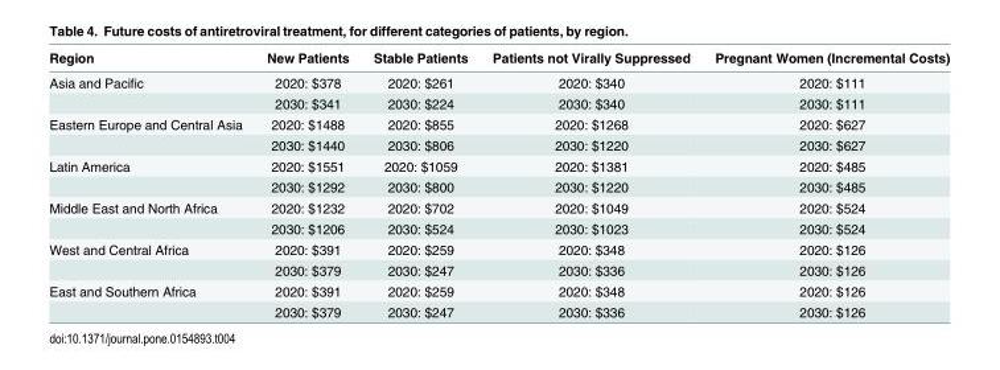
<table><thead><tr><td>Region</td><td>New Patients</td><td>Stable Patients</td><td>Patients not Virally Suppressed</td><td>Pregnant Women (Incremental Costs)</td></tr></thead><tbody><tr><td rowspan="2">Asia and Pacific</td><td>2020: $378</td><td>2020: $261</td><td>2020: $340</td><td>2020: $111</td></tr><tr><td>2030: $341</td><td>2030: $224</td><td>2030: $340</td><td>2030: $111</td></tr><tr><td rowspan="2">Eastern Europe and Central Asia</td><td>2020: $1488</td><td>2020: $855</td><td>2020: $1268</td><td>2020: $627</td></tr><tr><td>2030: $1440</td><td>2030: $806</td><td>2030: $1220</td><td>2030: $627</td></tr><tr><td rowspan="2">Latin America</td><td>2020: $1551</td><td>2020: $1059</td><td>2020: $1381</td><td>2020: $485</td></tr><tr><td>2030: $1292</td><td>2030: $800</td><td>2030: $1220</td><td>2030: $485</td></tr><tr><td rowspan="2">Middle East and North Africa</td><td>2020: $1232</td><td>2020: $702</td><td>2020: $1049</td><td>2020: $524</td></tr><tr><td>2030: $1206</td><td>2030: $524</td><td>2030: $1023</td><td>2030: $524</td></tr><tr><td rowspan="2">West and Central Africa</td><td>2020: $391</td><td>2020: $259</td><td>2020: $348</td><td>2020: $126</td></tr><tr><td>2030: $379</td><td>2030: $247</td><td>2030: $336</td><td>2030: $126</td></tr><tr><td rowspan="2">East and Southern Africa</td><td>2020: $391</td><td>2020: $259</td><td>2020: $348</td><td>2020: $126</td></tr><tr><td>2030: $379</td><td>2030: $247</td><td>2030: $336</td><td>2030: $126</td></tr></tbody></table>